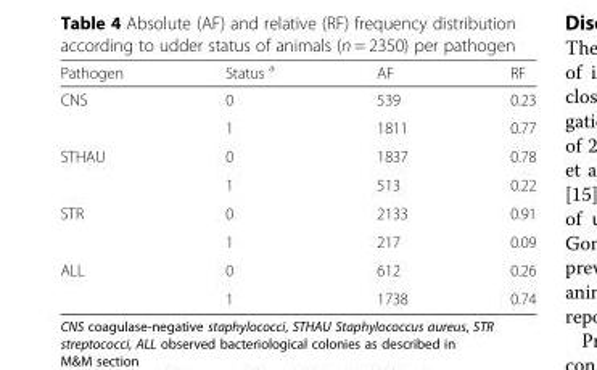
<table><thead><tr><td>Pathogen</td><td>Status <sup>a</sup></td><td>AF</td><td>RF</td></tr></thead><tbody><tr><td rowspan="2">CNS</td><td>0</td><td>539</td><td>0.23</td></tr><tr><td>1</td><td>1811</td><td>0.77</td></tr><tr><td rowspan="2">STHAU</td><td>0</td><td>1837</td><td>0.78</td></tr><tr><td>1</td><td>513</td><td>0.22</td></tr><tr><td rowspan="2">STR</td><td>0</td><td>2133</td><td>0.91</td></tr><tr><td>1</td><td>217</td><td>0.09</td></tr><tr><td rowspan="2">ALL</td><td>0</td><td>612</td><td>0.26</td></tr><tr><td>1</td><td>1738</td><td>0.74</td></tr></tbody></table>